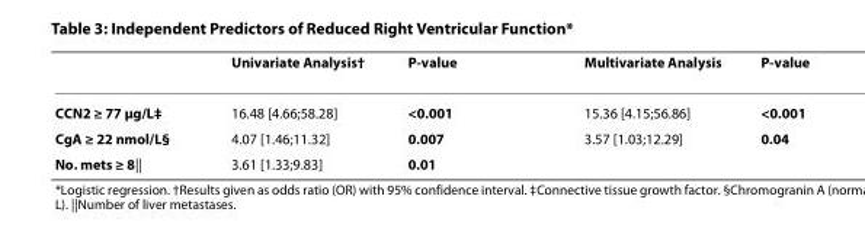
<table><thead><tr><td></td><td>Univariate Analysis†</td><td>P-value</td><td>Multivariate Analysis</td><td>P-value</td></tr></thead><tbody><tr><td>CCN2 ≥ 77 μg/L‡</td><td>16.48 [4.66;58.28]</td><td>&lt;0.001</td><td>15.36 [4.15;56.86]</td><td>&lt;0.001</td></tr><tr><td>CgA ≥ 22 nmol/L§</td><td>4.07 [1.46;11.32]</td><td>0.007</td><td>3.57 [1.03;12.29]</td><td>0.04</td></tr><tr><td>No. mets ≥ 8||</td><td>3.61 [1.33;9.83]</td><td>0.01</td><td></td><td></td></tr></tbody></table>